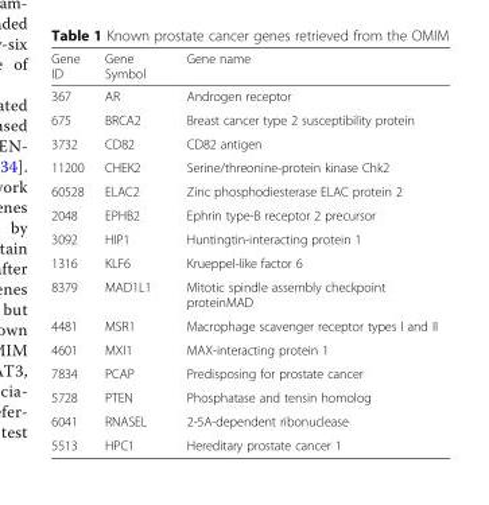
<table><thead><tr><td>Gene ID</td><td>Gene Symbol</td><td>Gene name</td></tr></thead><tbody><tr><td>367</td><td>AR</td><td>Androgen receptor</td></tr><tr><td>675</td><td>BRCA2</td><td>Breast cancer type 2 susceptibility protein</td></tr><tr><td>3732</td><td>CD82</td><td>CD82 antigen</td></tr><tr><td>11200</td><td>CHEK2</td><td>Serine/threonine-protein kinase Chk2</td></tr><tr><td>60528</td><td>ELAC2</td><td>Zinc phosphodiesterase ELAC protein 2</td></tr><tr><td>2048</td><td>EPHB2</td><td>Ephrin type-B receptor 2 precursor</td></tr><tr><td>3092</td><td>HIP1</td><td>Huntingtin-interacting protein 1</td></tr><tr><td>1316</td><td>KLF6</td><td>Krueppel-like factor 6</td></tr><tr><td>8379</td><td>MAD1L1</td><td>Mitotic spindle assembly checkpoint proteinMAD</td></tr><tr><td>4481</td><td>MSR1</td><td>Macrophage scavenger receptor types I and II</td></tr><tr><td>4601</td><td>MXI1</td><td>MAX-interacting protein 1</td></tr><tr><td>7834</td><td>PCAP</td><td>Predisposing for prostate cancer</td></tr><tr><td>5728</td><td>PTEN</td><td>Phosphatase and tensin homolog</td></tr><tr><td>6041</td><td>RNASEL</td><td>2-5A-dependent ribonuclease</td></tr><tr><td>5513</td><td>HPC1</td><td>Hereditary prostate cancer 1</td></tr></tbody></table>